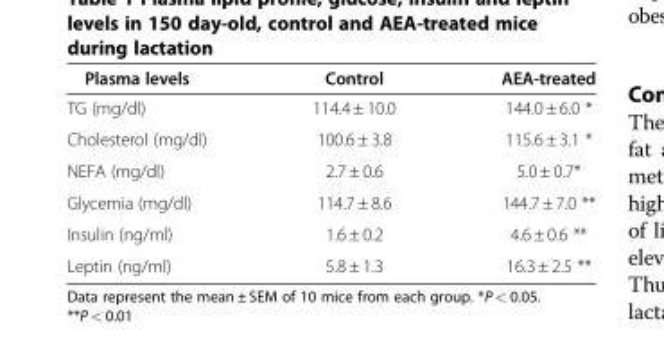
<table><thead><tr><td>Plasma levels</td><td>Control</td><td>AEA-treated</td></tr></thead><tbody><tr><td>TG (mg/dl)</td><td>114.4 ± 10.0</td><td>144.0 ± 6.0 *</td></tr><tr><td>Cholesterol (mg/dl)</td><td>100.6 ± 3.8</td><td>115.6 ± 3.1 *</td></tr><tr><td>NEFA (mg/dl)</td><td>2.7 ± 0.6</td><td>5.0 ± 0.7*</td></tr><tr><td>Glycemia (mg/dl)</td><td>114.7 ± 8.6</td><td>144.7 ± 7.0 **</td></tr><tr><td>Insulin (ng/ml)</td><td>1.6 ± 0.2</td><td>4.6 ± 0.6 **</td></tr><tr><td>Leptin (ng/ml)</td><td>5.8 ± 1.3</td><td>16.3 ± 2.5 **</td></tr></tbody></table>